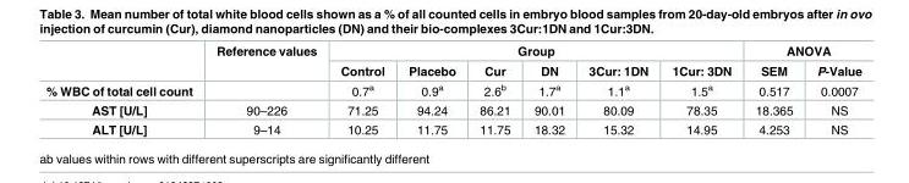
<table><thead><tr><td rowspan="2"></td><td rowspan="2">Reference values</td><td colspan="6">Group</td><td colspan="2">ANOVA</td></tr><tr><td>Control</td><td>Placebo</td><td>Cur</td><td>DN</td><td>3Cur: 1DN</td><td>1Cur: 3DN</td><td>SEM</td><td>P-Value</td></tr></thead><tbody><tr><td>% WBC of total cell count</td><td></td><td>0.7<sup>a</sup></td><td>0.9<sup>a</sup></td><td>2.6<sup>b</sup></td><td>1.7<sup>a</sup></td><td>1.1<sup>a</sup></td><td>1.5<sup>a</sup></td><td>0.517</td><td>0.0007</td></tr><tr><td>AST [U/L]</td><td>90–226</td><td>71.25</td><td>94.24</td><td>86.21</td><td>90.01</td><td>80.09</td><td>78.35</td><td>18.365</td><td>NS</td></tr><tr><td>ALT [U/L]</td><td>9–14</td><td>10.25</td><td>11.75</td><td>11.75</td><td>18.32</td><td>15.32</td><td>14.95</td><td>4.253</td><td>NS</td></tr></tbody></table>